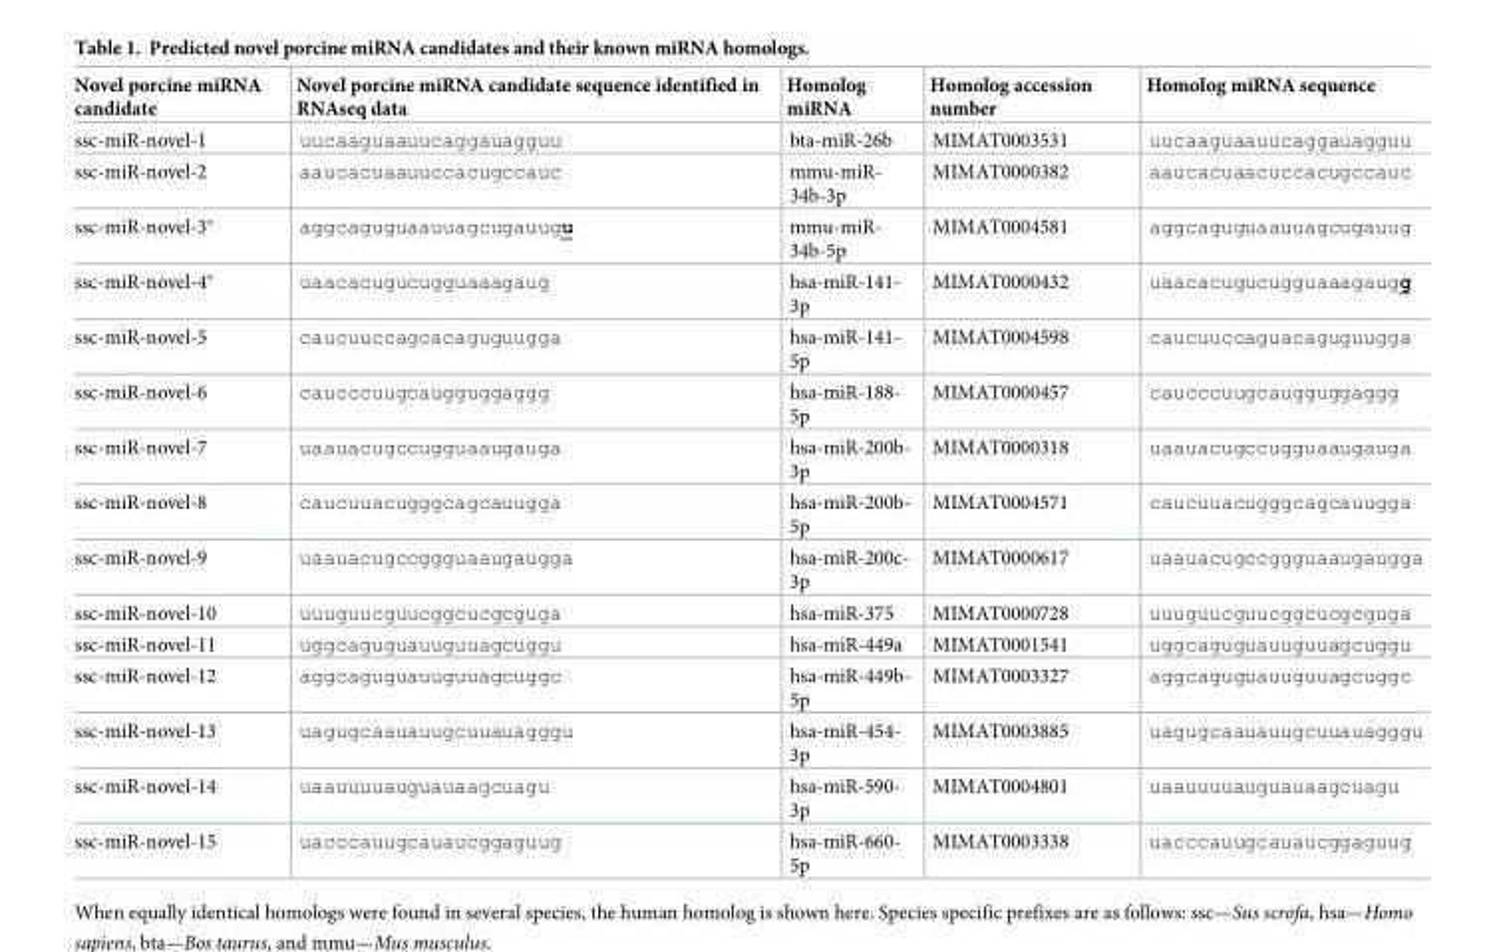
<table><thead><tr><td>Novel porcine miRNA candidate</td><td>Novel porcine miRNA candidate sequence identified in RNAseq data</td><td>Homolog miRNA</td><td>Homolog accession number</td><td>Homolog miRNA sequence</td></tr></thead><tbody><tr><td>ssc-miR-novel-1</td><td>uucaaguaauucaggauagguu</td><td>bta-miR-26b</td><td>MIMAT0003531</td><td>uucaaguaauucaggauagguu</td></tr><tr><td>ssc-miR-novel-2</td><td>aaucacuaauuccacugccauc</td><td>mmu-miR- 34b-3p</td><td>MIMAT0000382</td><td>aaucacuaacuccacugccauc</td></tr><tr><td>ssc-miR-novel-3*</td><td>aggcaguguaauuagcugauugu</td><td>mmu-miR- 34b-5p</td><td>MIMAT0004581</td><td>aggcaguguaauuagcugauug</td></tr><tr><td>ssc-miR-novel-4*</td><td>uaacacugucugguaaagaug</td><td>hsa-miR-141- 3p</td><td>MIMAT0000432</td><td>uaacacugucugguaaagaugg</td></tr><tr><td>ssc-miR-novel-5</td><td>caucuuccagcacaguguugga</td><td>hsa-miR-141- 5p</td><td>MIMAT0004598</td><td>caucuuccaguacaguguugga</td></tr><tr><td>ssc-miR-novel-6</td><td>caucccuugcaugguggaggg</td><td>hsa-miR-188- 5p</td><td>MIMAT0000457</td><td>caucccuugcaugguggaggg</td></tr><tr><td>ssc-miR-novel-7</td><td>uaauacugccugguaaugauga</td><td>hsa-miR-200b- 3p</td><td>MIMAT0000318</td><td>uaauacugccugguaaugauga</td></tr><tr><td>ssc-miR-novel-8</td><td>caucuuacugggcagcauugga</td><td>hsa-miR-200b- 5p</td><td>MIMAT0004571</td><td>caucuuacugggcagcauugga</td></tr><tr><td>ssc-miR-novel-9</td><td>uaauacugccggguaaugaugga</td><td>hsa-miR-200c- 3p</td><td>MIMAT0000617</td><td>uaauacugccggguaaugaugga</td></tr><tr><td>ssc-miR-novel-10</td><td>uuuguucguucggcucgcguga</td><td>hsa-miR-375</td><td>MIMAT0000728</td><td>uuuguucguucggcucgcguga</td></tr><tr><td>ssc-miR-novel-11</td><td>uggcaguguauuguuagcuggu</td><td>hsa-miR-449a</td><td>MIMAT0001541</td><td>uggcaguguauuguuagcuggu</td></tr><tr><td>ssc-miR-novel-12</td><td>aggcaguguauuguuagcuggc</td><td>hsa-miR-449b- 5p</td><td>MIMAT0003327</td><td>aggcaguguauuguuagcuggc</td></tr><tr><td>ssc-miR-novel-13</td><td>uagugcaauauugcuuauagggu</td><td>hsa-miR-454- 3p</td><td>MIMAT0003885</td><td>uagugcaauauugcuuauagggu</td></tr><tr><td>ssc-miR-novel-14</td><td>uaauuuuauguauaagcuagu</td><td>hsa-miR-590- 3p</td><td>MIMAT0004801</td><td>uaauuuuauguauaagcuagu</td></tr><tr><td>ssc-miR-novel-15</td><td>uacccauugcauaucggaguug</td><td>hsa-miR-660- 5p</td><td>MIMAT0003338</td><td>uacccauugcauaucggaguug</td></tr></tbody></table>